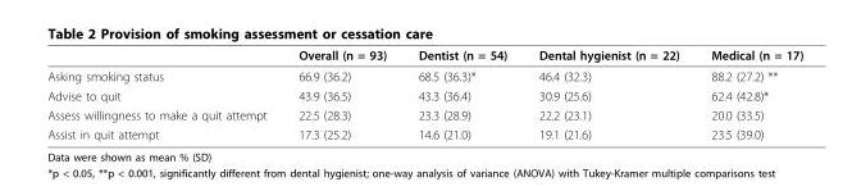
<table><thead><tr><td></td><td>Overall (n = 93)</td><td>Dentist (n = 54)</td><td>Dental hygienist (n = 22)</td><td>Medical (n = 17)</td></tr></thead><tbody><tr><td>Asking smoking status</td><td>66.9 (36.2)</td><td>68.5 (36.3)*</td><td>46.4 (32.3)</td><td>88.2 (27.2) **</td></tr><tr><td>Advise to quit</td><td>43.9 (36.5)</td><td>43.3 (36.4)</td><td>30.9 (25.6)</td><td>62.4 (42.8)*</td></tr><tr><td>Assess willingness to make a quit attempt</td><td>22.5 (28.3)</td><td>23.3 (28.9)</td><td>22.2 (23.1)</td><td>20.0 (33.5)</td></tr><tr><td>Assist in quit attempt</td><td>17.3 (25.2)</td><td>14.6 (21.0)</td><td>19.1 (21.6)</td><td>23.5 (39.0)</td></tr></tbody></table>